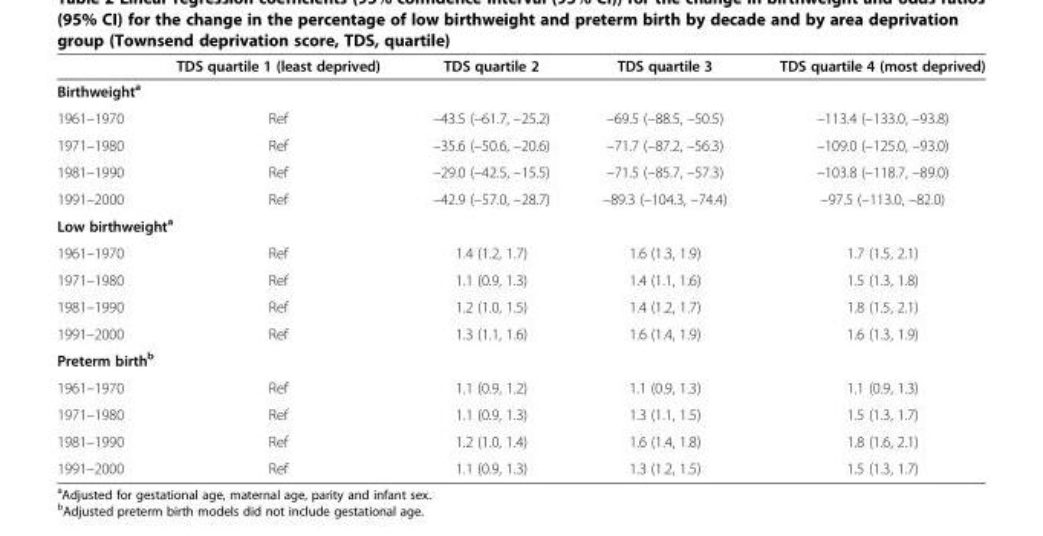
<table><thead><tr><td></td><td>TDS quartile 1 (least deprived)</td><td>TDS quartile 2</td><td>TDS quartile 3</td><td>TDS quartile 4 (most deprived)</td></tr></thead><tbody><tr><td colspan="5">Birthweight<sup>a</sup></td></tr><tr><td>1961–1970</td><td>Ref</td><td>–43.5 (–61.7, –25.2)</td><td>–69.5 (–88.5, –50.5)</td><td>–113.4 (–133.0, –93.8)</td></tr><tr><td>1971–1980</td><td>Ref</td><td>–35.6 (–50.6, –20.6)</td><td>–71.7 (–87.2, –56.3)</td><td>–109.0 (–125.0, –93.0)</td></tr><tr><td>1981–1990</td><td>Ref</td><td>–29.0 (–42.5, –15.5)</td><td>–71.5 (–85.7, –57.3)</td><td>–103.8 (–118.7, –89.0)</td></tr><tr><td>1991–2000</td><td>Ref</td><td>–42.9 (–57.0, –28.7)</td><td>–89.3 (–104.3, –74.4)</td><td>–97.5 (–113.0, –82.0)</td></tr><tr><td colspan="5">Low birthweight<sup>a</sup></td></tr><tr><td>1961–1970</td><td>Ref</td><td>1.4 (1.2, 1.7)</td><td>1.6 (1.3, 1.9)</td><td>1.7 (1.5, 2.1)</td></tr><tr><td>1971–1980</td><td>Ref</td><td>1.1 (0.9, 1.3)</td><td>1.4 (1.1, 1.6)</td><td>1.5 (1.3, 1.8)</td></tr><tr><td>1981–1990</td><td>Ref</td><td>1.2 (1.0, 1.5)</td><td>1.4 (1.2, 1.7)</td><td>1.8 (1.5, 2.1)</td></tr><tr><td>1991–2000</td><td>Ref</td><td>1.3 (1.1, 1.6)</td><td>1.6 (1.4, 1.9)</td><td>1.6 (1.3, 1.9)</td></tr><tr><td colspan="5">Preterm birth<sup>b</sup></td></tr><tr><td>1961–1970</td><td>Ref</td><td>1.1 (0.9, 1.2)</td><td>1.1 (0.9, 1.3)</td><td>1.1 (0.9, 1.3)</td></tr><tr><td>1971–1980</td><td>Ref</td><td>1.1 (0.9, 1.3)</td><td>1.3 (1.1, 1.5)</td><td>1.5 (1.3, 1.7)</td></tr><tr><td>1981–1990</td><td>Ref</td><td>1.2 (1.0, 1.4)</td><td>1.6 (1.4, 1.8)</td><td>1.8 (1.6, 2.1)</td></tr><tr><td>1991–2000</td><td>Ref</td><td>1.1 (0.9, 1.3)</td><td>1.3 (1.2, 1.5)</td><td>1.5 (1.3, 1.7)</td></tr></tbody></table>